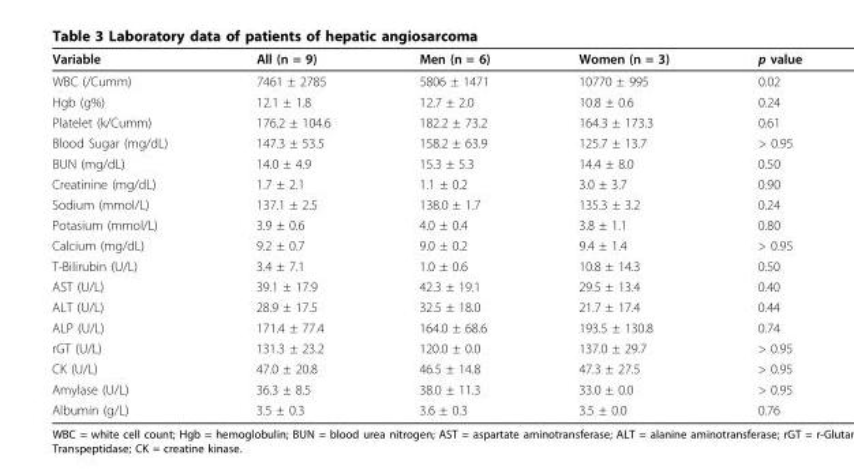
<table><thead><tr><td>Variable</td><td>All (n = 9)</td><td>Men (n = 6)</td><td>Women (n = 3)</td><td>p value</td></tr></thead><tbody><tr><td>WBC (/Cumm)</td><td>7461 ± 2785</td><td>5806 ± 1471</td><td>10770 ± 995</td><td>0.02</td></tr><tr><td>Hgb (g%)</td><td>12.1 ± 1.8</td><td>12.7 ± 2.0</td><td>10.8 ± 0.6</td><td>0.24</td></tr><tr><td>Platelet (k/Cumm)</td><td>176.2 ± 104.6</td><td>182.2 ± 73.2</td><td>164.3 ± 173.3</td><td>0.61</td></tr><tr><td>Blood Sugar (mg/dL)</td><td>147.3 ± 53.5</td><td>158.2 ± 63.9</td><td>125.7 ± 13.7</td><td>&gt; 0.95</td></tr><tr><td>BUN (mg/dL)</td><td>14.0 ± 4.9</td><td>15.3 ± 5.3</td><td>14.4 ± 8.0</td><td>0.50</td></tr><tr><td>Creatinine (mg/dL)</td><td>1.7 ± 2.1</td><td>1.1 ± 0.2</td><td>3.0 ± 3.7</td><td>0.90</td></tr><tr><td>Sodium (mmol/L)</td><td>137.1 ± 2.5</td><td>138.0 ± 1.7</td><td>135.3 ± 3.2</td><td>0.24</td></tr><tr><td>Potasium (mmol/L)</td><td>3.9 ± 0.6</td><td>4.0 ± 0.4</td><td>3.8 ± 1.1</td><td>0.80</td></tr><tr><td>Calcium (mg/dL)</td><td>9.2 ± 0.7</td><td>9.0 ± 0.2</td><td>9.4 ± 1.4</td><td>&gt; 0.95</td></tr><tr><td>T-Bilirubin (U/L)</td><td>3.4 ± 7.1</td><td>1.0 ± 0.6</td><td>10.8 ± 14.3</td><td>0.50</td></tr><tr><td>AST (U/L)</td><td>39.1 ± 17.9</td><td>42.3 ± 19.1</td><td>29.5 ± 13.4</td><td>0.40</td></tr><tr><td>ALT (U/L)</td><td>28.9 ± 17.5</td><td>32.5 ± 18.0</td><td>21.7 ± 17.4</td><td>0.44</td></tr><tr><td>ALP (U/L)</td><td>171.4 ± 77.4</td><td>164.0 ± 68.6</td><td>193.5 ± 130.8</td><td>0.74</td></tr><tr><td>rGT (U/L)</td><td>131.3 ± 23.2</td><td>120.0 ± 0.0</td><td>137.0 ± 29.7</td><td>&gt; 0.95</td></tr><tr><td>CK (U/L)</td><td>47.0 ± 20.8</td><td>46.5 ± 14.8</td><td>47.3 ± 27.5</td><td>&gt; 0.95</td></tr><tr><td>Amylase (U/L)</td><td>36.3 ± 8.5</td><td>38.0 ± 11.3</td><td>33.0 ± 0.0</td><td>&gt; 0.95</td></tr><tr><td>Albumin (g/L)</td><td>3.5 ± 0.3</td><td>3.6 ± 0.3</td><td>3.5 ± 0.0</td><td>0.76</td></tr></tbody></table>